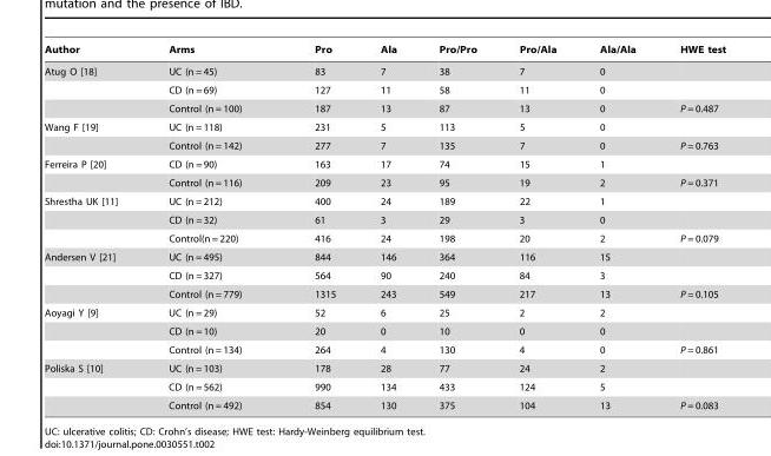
<table><thead><tr><td>Author</td><td>Arms</td><td>Pro</td><td>Ala</td><td>Pro/Pro</td><td>Pro/Ala</td><td>Ala/Ala</td><td>HWE test</td></tr></thead><tbody><tr><td rowspan="3">Atug O [18]</td><td>UC (n = 45)</td><td>83</td><td>7</td><td>38</td><td>7</td><td>0</td><td></td></tr><tr><td>CD (n = 69)</td><td>127</td><td>11</td><td>58</td><td>11</td><td>0</td><td></td></tr><tr><td>Control (n = 100)</td><td>187</td><td>13</td><td>87</td><td>13</td><td>0</td><td>P = 0.487</td></tr><tr><td rowspan="2">Wang F [19]</td><td>UC (n = 118)</td><td>231</td><td>5</td><td>113</td><td>5</td><td>0</td><td></td></tr><tr><td>Control (n = 142)</td><td>277</td><td>7</td><td>135</td><td>7</td><td>0</td><td>P = 0.763</td></tr><tr><td rowspan="2">Ferreira P [20]</td><td>CD (n = 90)</td><td>163</td><td>17</td><td>74</td><td>15</td><td>1</td><td></td></tr><tr><td>Control (n = 116)</td><td>209</td><td>23</td><td>95</td><td>19</td><td>2</td><td>P = 0.371</td></tr><tr><td rowspan="3">Shrestha UK [11]</td><td>UC (n = 212)</td><td>400</td><td>24</td><td>189</td><td>22</td><td>1</td><td></td></tr><tr><td>CD (n = 32)</td><td>61</td><td>3</td><td>29</td><td>3</td><td>0</td><td></td></tr><tr><td>Control(n = 220)</td><td>416</td><td>24</td><td>198</td><td>20</td><td>2</td><td>P = 0.079</td></tr><tr><td rowspan="3">Andersen V [21]</td><td>UC (n = 495)</td><td>844</td><td>146</td><td>364</td><td>116</td><td>15</td><td></td></tr><tr><td>CD (n = 327)</td><td>564</td><td>90</td><td>240</td><td>84</td><td>3</td><td></td></tr><tr><td>Control (n = 779)</td><td>1315</td><td>243</td><td>549</td><td>217</td><td>13</td><td>P = 0.105</td></tr><tr><td rowspan="3">Aoyagi Y [9]</td><td>UC (n = 29)</td><td>52</td><td>6</td><td>25</td><td>2</td><td>2</td><td></td></tr><tr><td>CD (n = 10)</td><td>20</td><td>0</td><td>10</td><td>0</td><td>0</td><td></td></tr><tr><td>Control (n = 134)</td><td>264</td><td>4</td><td>130</td><td>4</td><td>0</td><td>P = 0.861</td></tr><tr><td rowspan="3">Poliska S [10]</td><td>UC (n = 103)</td><td>178</td><td>28</td><td>77</td><td>24</td><td>2</td><td></td></tr><tr><td>CD (n = 562)</td><td>990</td><td>134</td><td>433</td><td>124</td><td>5</td><td></td></tr><tr><td>Control (n = 492)</td><td>854</td><td>130</td><td>375</td><td>104</td><td>13</td><td>P = 0.083</td></tr></tbody></table>